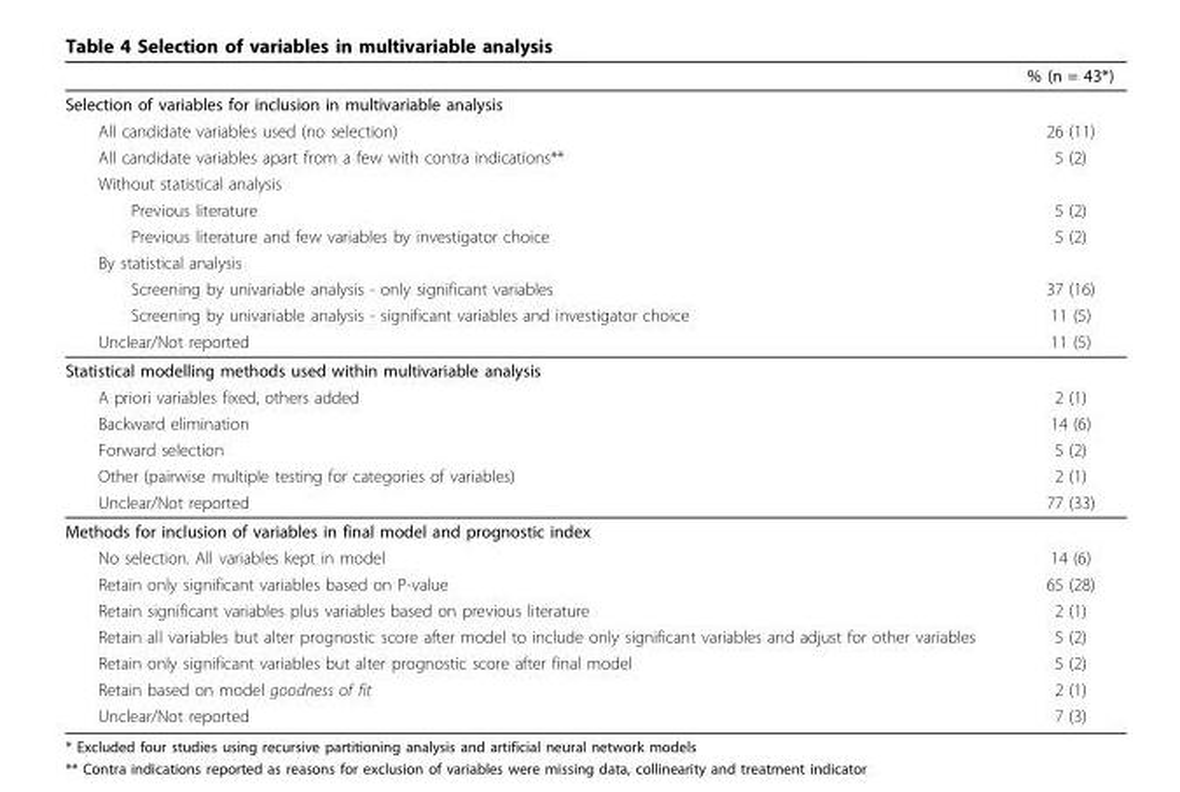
<table><thead><tr><td></td><td>% (n = 43*)</td></tr></thead><tbody><tr><td colspan="2">Selection of variables for inclusion in multivariable analysis</td></tr><tr><td>All candidate variables used (no selection)</td><td>26 (11)</td></tr><tr><td>All candidate variables apart from a few with contra indications**</td><td>5 (2)</td></tr><tr><td colspan="2">Without statistical analysis</td></tr><tr><td>Previous literature</td><td>5 (2)</td></tr><tr><td>Previous literature and few variables by investigator choice</td><td>5 (2)</td></tr><tr><td colspan="2">By statistical analysis</td></tr><tr><td>Screening by univariable analysis - only significant variables</td><td>37 (16)</td></tr><tr><td>Screening by univariable analysis - significant variables and investigator choice</td><td>11 (5)</td></tr><tr><td>Unclear/Not reported</td><td>11 (5)</td></tr><tr><td colspan="2">Statistical modelling methods used within multivariable analysis</td></tr><tr><td>A priori variables fixed, others added</td><td>2 (1)</td></tr><tr><td>Backward elimination</td><td>14 (6)</td></tr><tr><td>Forward selection</td><td>5 (2)</td></tr><tr><td>Other (pairwise multiple testing for categories of variables)</td><td>2 (1)</td></tr><tr><td>Unclear/Not reported</td><td>77 (33)</td></tr><tr><td colspan="2">Methods for inclusion of variables in final model and prognostic index</td></tr><tr><td>No selection. All variables kept in model</td><td>14 (6)</td></tr><tr><td>Retain only significant variables based on P-value</td><td>65 (28)</td></tr><tr><td>Retain significant variables plus variables based on previous literature</td><td>2 (1)</td></tr><tr><td>Retain all variables but alter prognostic score after model to include only significant variables and adjust for other variables</td><td>5 (2)</td></tr><tr><td>Retain only significant variables but alter prognostic score after final model</td><td>5 (2)</td></tr><tr><td>Retain based on model goodness of fit</td><td>2 (1)</td></tr><tr><td>Unclear/Not reported</td><td>7 (3)</td></tr></tbody></table>